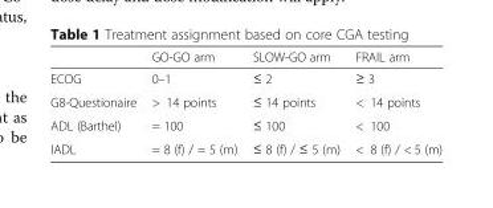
<table><thead><tr><td></td><td>GO-GO arm</td><td>SLOW-GO arm</td><td>FRAIL arm</td></tr></thead><tbody><tr><td>ECOG</td><td>0–1</td><td>≤ 2</td><td>≥ 3</td></tr><tr><td>G8-Questionaire</td><td>&gt; 14 points</td><td>≤ 14 points</td><td>&lt; 14 points</td></tr><tr><td>ADL (Barthel)</td><td>= 100</td><td>≤ 100</td><td>&lt; 100</td></tr><tr><td>IADL</td><td>= 8 (f) / = 5 (m)</td><td>≤ 8 (f) / ≤ 5 (m)</td><td>&lt; 8 (f) / &lt; 5 (m)</td></tr></tbody></table>